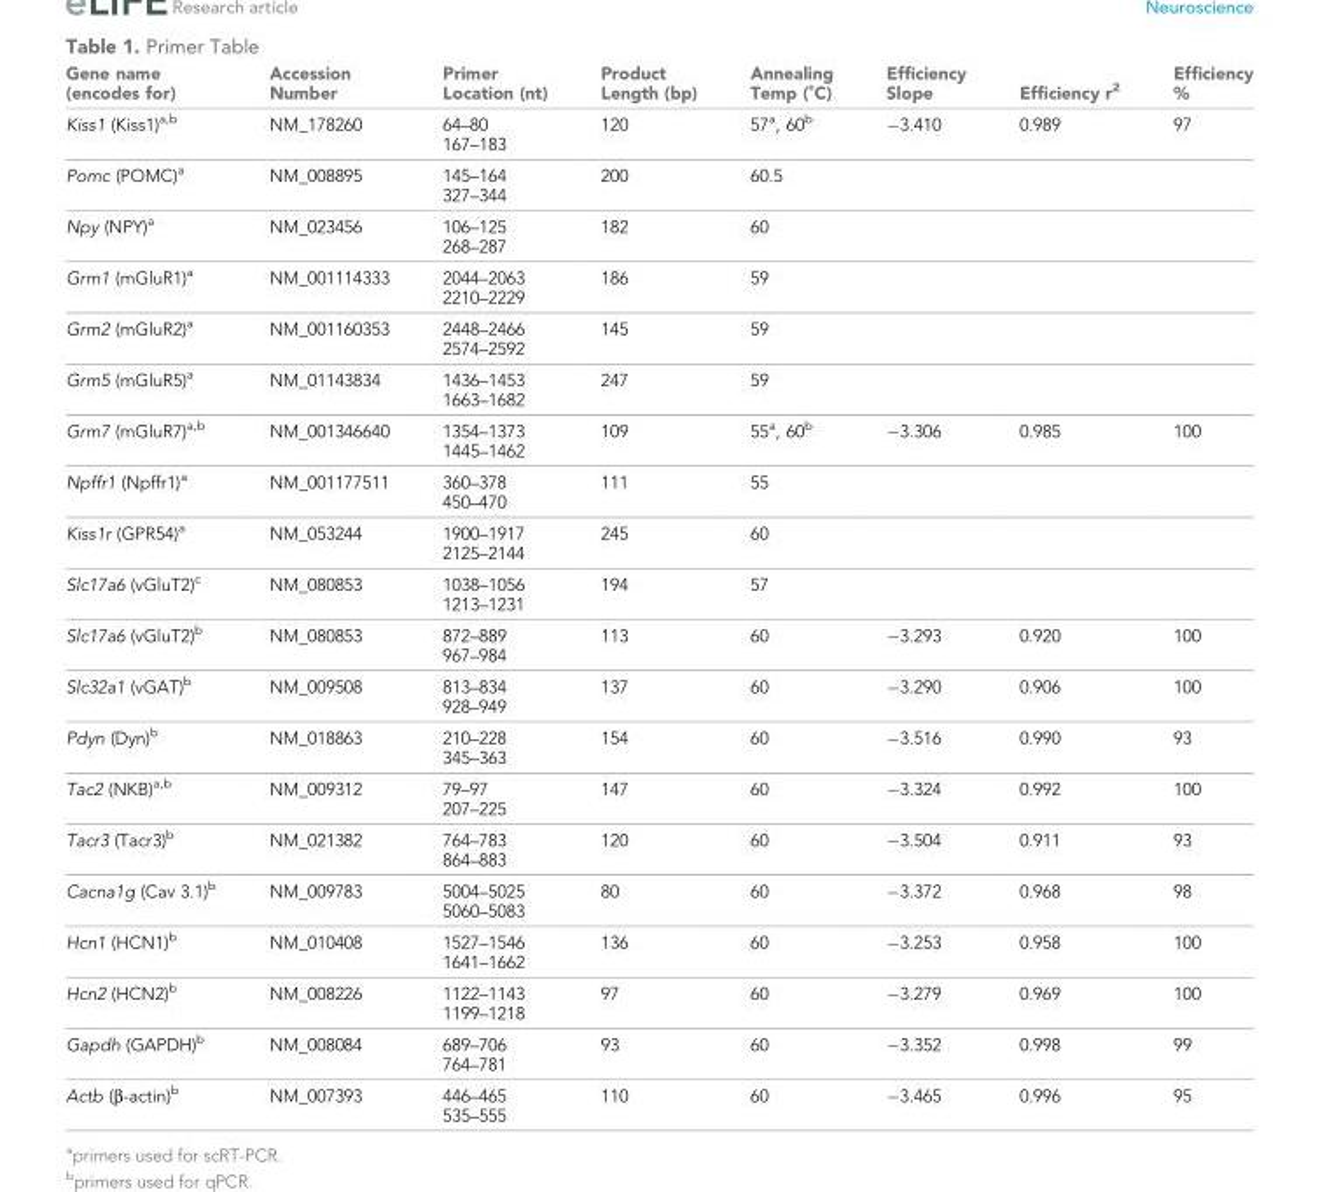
<table><thead><tr><td>Gene name (encodes for)</td><td>Accession Number</td><td>Primer Location (nt)</td><td>Product Length (bp)</td><td>Annealing Temp (˚C)</td><td>Efficiency Slope</td><td>Efficiency r<sup>2</sup></td><td>Efficiency %</td></tr></thead><tbody><tr><td>Kiss1 (Kiss1)<sup>a,b</sup></td><td>NM_178260</td><td>64–80 167–183</td><td>120</td><td>57<sup>a</sup>, 60<sup>b</sup></td><td>−3.410</td><td>0.989</td><td>97</td></tr><tr><td>Pomc (POMC)<sup>a</sup></td><td>NM_008895</td><td>145–164 327–344</td><td>200</td><td>60.5</td><td></td><td></td><td></td></tr><tr><td>Npy (NPY)<sup>a</sup></td><td>NM_023456</td><td>106–125 268–287</td><td>182</td><td>60</td><td></td><td></td><td></td></tr><tr><td>Grm1 (mGluR1)<sup>a</sup></td><td>NM_001114333</td><td>2044–2063 2210–2229</td><td>186</td><td>59</td><td></td><td></td><td></td></tr><tr><td>Grm2 (mGluR2)<sup>a</sup></td><td>NM_001160353</td><td>2448–2466 2574–2592</td><td>145</td><td>59</td><td></td><td></td><td></td></tr><tr><td>Grm5 (mGluR5)<sup>a</sup></td><td>NM_01143834</td><td>1436–1453 1663–1682</td><td>247</td><td>59</td><td></td><td></td><td></td></tr><tr><td>Grm7 (mGluR7)<sup>a,b</sup></td><td>NM_001346640</td><td>1354–1373 1445–1462</td><td>109</td><td>55<sup>a</sup>, 60<sup>b</sup></td><td>−3.306</td><td>0.985</td><td>100</td></tr><tr><td>Npffr1 (Npffr1)<sup>a</sup></td><td>NM_001177511</td><td>360–378 450–470</td><td>111</td><td>55</td><td></td><td></td><td></td></tr><tr><td>Kiss1r (GPR54)<sup>a</sup></td><td>NM_053244</td><td>1900–1917 2125–2144</td><td>245</td><td>60</td><td></td><td></td><td></td></tr><tr><td>Slc17a6 (vGluT2)<sup>c</sup></td><td>NM_080853</td><td>1038–1056 1213–1231</td><td>194</td><td>57</td><td></td><td></td><td></td></tr><tr><td>Slc17a6 (vGluT2)<sup>b</sup></td><td>NM_080853</td><td>872–889 967–984</td><td>113</td><td>60</td><td>−3.293</td><td>0.920</td><td>100</td></tr><tr><td>Slc32a1 (vGAT)<sup>b</sup></td><td>NM_009508</td><td>813–834 928–949</td><td>137</td><td>60</td><td>−3.290</td><td>0.906</td><td>100</td></tr><tr><td>Pdyn (Dyn)<sup>b</sup></td><td>NM_018863</td><td>210–228 345–363</td><td>154</td><td>60</td><td>−3.516</td><td>0.990</td><td>93</td></tr><tr><td>Tac2 (NKB)<sup>a,b</sup></td><td>NM_009312</td><td>79–97 207–225</td><td>147</td><td>60</td><td>−3.324</td><td>0.992</td><td>100</td></tr><tr><td>Tacr3 (Tacr3)<sup>b</sup></td><td>NM_021382</td><td>764–783 864–883</td><td>120</td><td>60</td><td>−3.504</td><td>0.911</td><td>93</td></tr><tr><td>Cacna1g (Cav 3.1)<sup>b</sup></td><td>NM_009783</td><td>5004–5025 5060–5083</td><td>80</td><td>60</td><td>−3.372</td><td>0.968</td><td>98</td></tr><tr><td>Hcn1 (HCN1)<sup>b</sup></td><td>NM_010408</td><td>1527–1546 1641–1662</td><td>136</td><td>60</td><td>−3.253</td><td>0.958</td><td>100</td></tr><tr><td>Hcn2 (HCN2)<sup>b</sup></td><td>NM_008226</td><td>1122–1143 1199–1218</td><td>97</td><td>60</td><td>−3.279</td><td>0.969</td><td>100</td></tr><tr><td>Gapdh (GAPDH)<sup>b</sup></td><td>NM_008084</td><td>689–706 764–781</td><td>93</td><td>60</td><td>−3.352</td><td>0.998</td><td>99</td></tr><tr><td>Actb (β-actin)<sup>b</sup></td><td>NM_007393</td><td>446–465 535–555</td><td>110</td><td>60</td><td>−3.465</td><td>0.996</td><td>95</td></tr></tbody></table>